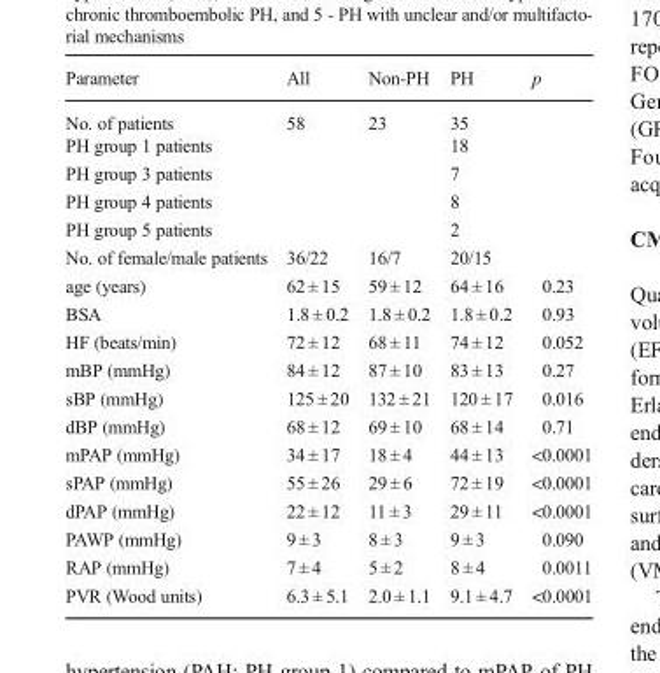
<table><thead><tr><td>Parameter</td><td>All</td><td>Non-PH</td><td>PH</td><td>p</td></tr></thead><tbody><tr><td>No. of patients</td><td rowspan="5">58</td><td rowspan="5">23</td><td>35</td><td rowspan="6"></td></tr><tr><td>PH group 1 patients</td><td>18</td></tr><tr><td>PH group 3 patients</td><td>7</td></tr><tr><td>PH group 4 patients</td><td>8</td></tr><tr><td>PH group 5 patients</td><td>2</td></tr><tr><td>No. of female/male patients</td><td>36/22</td><td>16/7</td><td>20/15</td></tr><tr><td>age (years)</td><td>62 ± 15</td><td>59 ± 12</td><td>64 ± 16</td><td>0.23</td></tr><tr><td>BSA</td><td>1.8 ± 0.2</td><td>1.8 ± 0.2</td><td>1.8 ± 0.2</td><td>0.93</td></tr><tr><td>HF (beats/min)</td><td>72 ± 12</td><td>68 ± 11</td><td>74 ± 12</td><td>0.052</td></tr><tr><td>mBP (mmHg)</td><td>84 ± 12</td><td>87 ± 10</td><td>83 ± 13</td><td>0.27</td></tr><tr><td>sBP (mmHg)</td><td>125 ± 20</td><td>132 ± 21</td><td>120 ± 17</td><td>0.016</td></tr><tr><td>dBP (mmHg)</td><td>68 ± 12</td><td>69 ± 10</td><td>68 ± 14</td><td>0.71</td></tr><tr><td>mPAP (mmHg)</td><td>34 ± 17</td><td>18 ± 4</td><td>44 ± 13</td><td>&lt;0.0001</td></tr><tr><td>sPAP (mmHg)</td><td>55 ± 26</td><td>29 ± 6</td><td>72 ± 19</td><td>&lt;0.0001</td></tr><tr><td>dPAP (mmHg)</td><td>22 ± 12</td><td>11 ± 3</td><td>29 ± 11</td><td>&lt;0.0001</td></tr><tr><td>PAWP (mmHg)</td><td>9 ± 3</td><td>8 ± 3</td><td>9 ± 3</td><td>0.090</td></tr><tr><td>RAP (mmHg)</td><td>7 ± 4</td><td>5 ± 2</td><td>8 ± 4</td><td>0.0011</td></tr><tr><td>PVR (Wood units)</td><td>6.3 ± 5.1</td><td>2.0 ± 1.1</td><td>9.1 ± 4.7</td><td>&lt;0.0001</td></tr></tbody></table>